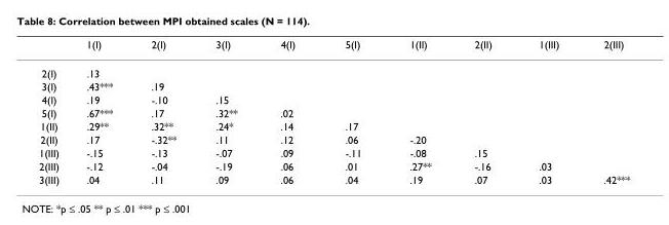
<table><thead><tr><td></td><td>1(I)</td><td>2(I)</td><td>3(I)</td><td>4(I)</td><td>5(I)</td><td>1(II)</td><td>2(II)</td><td>1(III)</td><td>2(III)</td></tr></thead><tbody><tr><td>2(I)</td><td>.13</td><td></td><td></td><td></td><td></td><td></td><td></td><td></td><td></td></tr><tr><td>3(I)</td><td>.43***</td><td>.19</td><td></td><td></td><td></td><td></td><td></td><td></td><td></td></tr><tr><td>4(I)</td><td>.19</td><td>-.10</td><td>.15</td><td></td><td></td><td></td><td></td><td></td><td></td></tr><tr><td>5(I)</td><td>.67***</td><td>.17</td><td>.32**</td><td>.02</td><td></td><td></td><td></td><td></td><td></td></tr><tr><td>1(II)</td><td>.29**</td><td>.32**</td><td>.24*</td><td>.14</td><td>.17</td><td></td><td></td><td></td><td></td></tr><tr><td>2(II)</td><td>.17</td><td>-.32**</td><td>.11</td><td>.12</td><td>.06</td><td>-.20</td><td></td><td></td><td></td></tr><tr><td>1(III)</td><td>-.15</td><td>-.13</td><td>-.07</td><td>.09</td><td>-.11</td><td>-.08</td><td>.15</td><td></td><td></td></tr><tr><td>2(III)</td><td>-.12</td><td>-.04</td><td>-.19</td><td>.06</td><td>.01</td><td>.27**</td><td>-.16</td><td>.03</td><td></td></tr><tr><td>3(III)</td><td>.04</td><td>.11</td><td>.09</td><td>.06</td><td>.04</td><td>.19</td><td>.07</td><td>.03</td><td>.42***</td></tr></tbody></table>